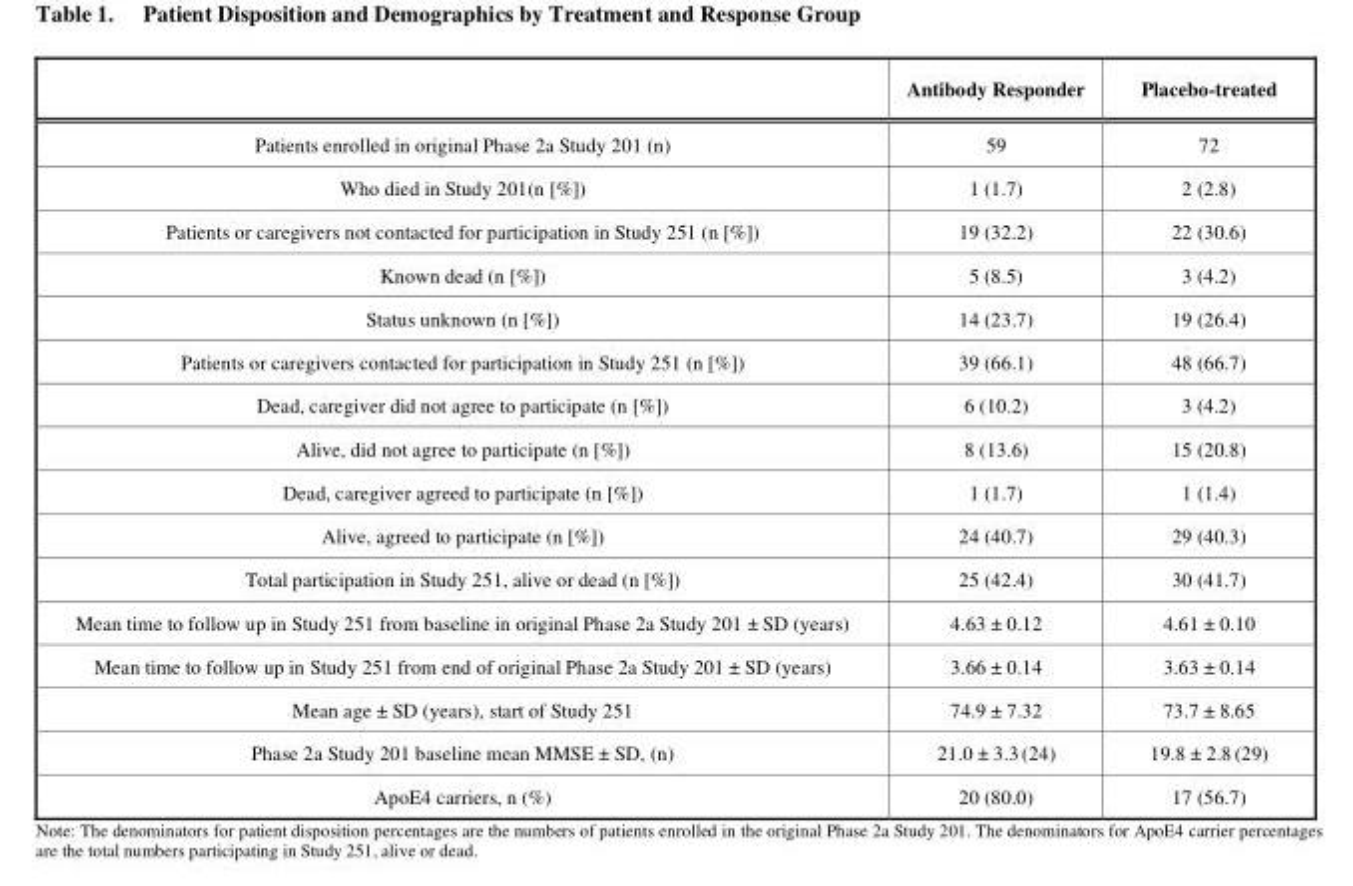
<table><thead><tr><td></td><td>Antibody Responder</td><td>Placebo-treated</td></tr></thead><tbody><tr><td>Patients enrolled in original Phase 2a Study 201 (n)</td><td>59</td><td>72</td></tr><tr><td>Who died in Study 201(n [%])</td><td>1 (1.7)</td><td>2 (2.8)</td></tr><tr><td>Patients or caregivers not contacted for participation in Study 251 (n [%])</td><td>19 (32.2)</td><td>22 (30.6)</td></tr><tr><td>Known dead (n [%])</td><td>5 (8.5)</td><td>3 (4.2)</td></tr><tr><td>Status unknown (n [%])</td><td>14 (23.7)</td><td>19 (26.4)</td></tr><tr><td>Patients or caregivers contacted for participation in Study 251 (n [%])</td><td>39 (66.1)</td><td>48 (66.7)</td></tr><tr><td>Dead, caregiver did not agree to participate (n [%])</td><td>6 (10.2)</td><td>3 (4.2)</td></tr><tr><td>Alive, did not agree to participate (n [%])</td><td>8 (13.6)</td><td>15 (20.8)</td></tr><tr><td>Dead, caregiver agreed to participate (n [%])</td><td>1 (1.7)</td><td>1 (1.4)</td></tr><tr><td>Alive, agreed to participate (n [%])</td><td>24 (40.7)</td><td>29 (40.3)</td></tr><tr><td>Total participation in Study 251, alive or dead (n [%])</td><td>25 (42.4)</td><td>30 (41.7)</td></tr><tr><td>Mean time to follow up in Study 251 from baseline in original Phase 2a Study 201 ± SD (years)</td><td>4.63 ± 0.12</td><td>4.61 ± 0.10</td></tr><tr><td>Mean time to follow up in Study 251 from end of original Phase 2a Study 201 ± SD (years)</td><td>3.66 ± 0.14</td><td>3.63 ± 0.14</td></tr><tr><td>Mean age ± SD (years), start of Study 251</td><td>74.9 ± 7.32</td><td>73.7 ± 8.65</td></tr><tr><td>Phase 2a Study 201 baseline mean MMSE ± SD, (n)</td><td>21.0 ± 3.3 (24)</td><td>19.8 ± 2.8 (29)</td></tr><tr><td>ApoE4 carriers, n (%)</td><td>20 (80.0)</td><td>17 (56.7)</td></tr></tbody></table>